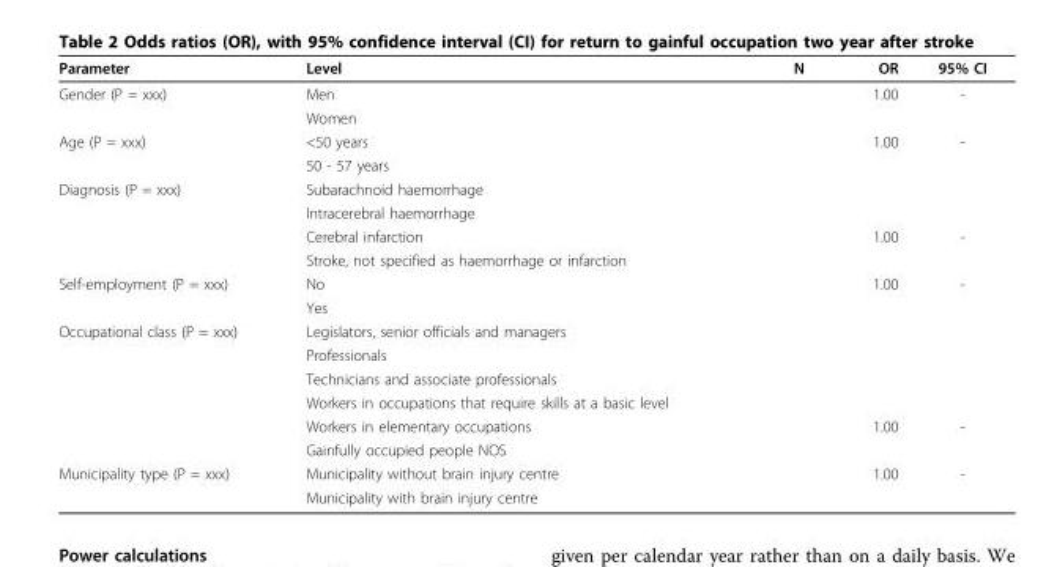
<table><thead><tr><td>Parameter</td><td>Level</td><td>N</td><td>OR</td><td>95% CI</td></tr></thead><tbody><tr><td rowspan="2">Gender (P = xxx)</td><td>Men</td><td></td><td>1.00</td><td>-</td></tr><tr><td>Women</td><td></td><td></td><td></td></tr><tr><td rowspan="2">Age (P = xxx)</td><td>&lt;50 years</td><td></td><td>1.00</td><td>-</td></tr><tr><td>50 - 57 years</td><td></td><td></td><td></td></tr><tr><td rowspan="4">Diagnosis (P = xxx)</td><td>Subarachnoid haemorrhage</td><td></td><td></td><td></td></tr><tr><td>Intracerebral haemorrhage</td><td></td><td></td><td></td></tr><tr><td>Cerebral infarction</td><td></td><td>1.00</td><td>-</td></tr><tr><td>Stroke, not specified as haemorrhage or infarction</td><td></td><td></td><td></td></tr><tr><td rowspan="2">Self-employment (P = xxx)</td><td>No</td><td></td><td>1.00</td><td>-</td></tr><tr><td>Yes</td><td></td><td></td><td></td></tr><tr><td rowspan="6">Occupational class (P = xxx)</td><td>Legislators, senior officials and managers</td><td></td><td></td><td></td></tr><tr><td>Professionals</td><td></td><td></td><td></td></tr><tr><td>Technicians and associate professionals</td><td></td><td></td><td></td></tr><tr><td>Workers in occupations that require skills at a basic level</td><td></td><td></td><td></td></tr><tr><td>Workers in elementary occupations</td><td></td><td>1.00</td><td>-</td></tr><tr><td>Gainfully occupied people NOS</td><td></td><td></td><td></td></tr><tr><td rowspan="2">Municipality type (P = xxx)</td><td>Municipality without brain injury centre</td><td></td><td>1.00</td><td>-</td></tr><tr><td>Municipality with brain injury centre</td><td></td><td></td><td></td></tr></tbody></table>